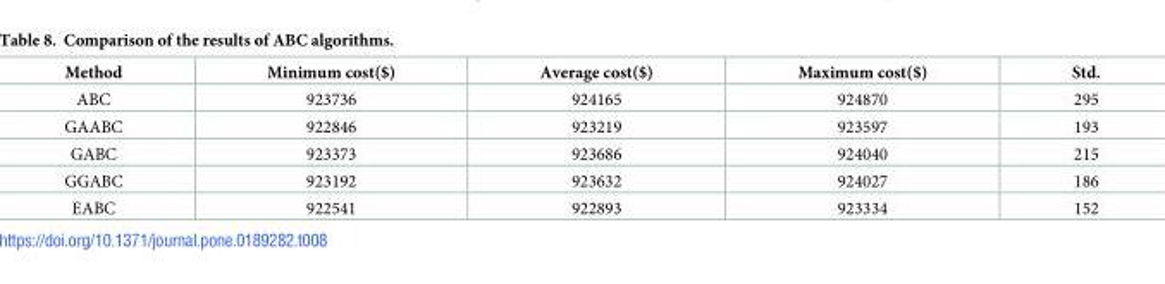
<table><thead><tr><td>Method</td><td>Minimum cost($)</td><td>Average cost($)</td><td>Maximum cost($)</td><td>Std.</td></tr></thead><tbody><tr><td>ABC</td><td>923736</td><td>924165</td><td>924870</td><td>295</td></tr><tr><td>GAABC</td><td>922846</td><td>923219</td><td>923597</td><td>193</td></tr><tr><td>GABC</td><td>923373</td><td>923686</td><td>924040</td><td>215</td></tr><tr><td>GGABC</td><td>923192</td><td>923632</td><td>924027</td><td>186</td></tr><tr><td>EABC</td><td>922541</td><td>922893</td><td>923334</td><td>152</td></tr></tbody></table>